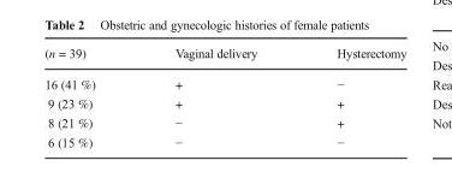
<table><thead><tr><td>(n = 39)</td><td>Vaginal delivery</td><td>Hysterectomy</td></tr></thead><tbody><tr><td>16 (41 %)</td><td>+</td><td>−</td></tr><tr><td>9 (23 %)</td><td>+</td><td>+</td></tr><tr><td>8 (21 %)</td><td>−</td><td>+</td></tr><tr><td>6 (15 %)</td><td>−</td><td>−</td></tr></tbody></table>